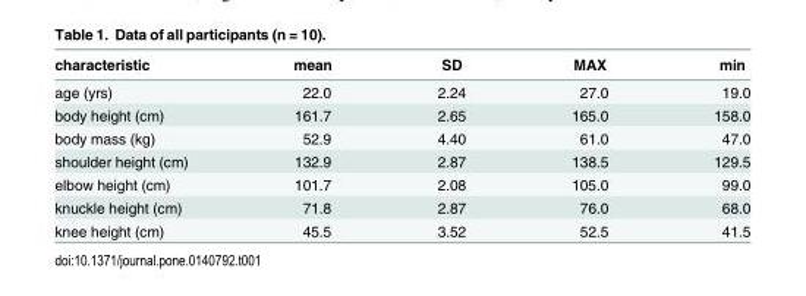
<table><thead><tr><td>characteristic</td><td>mean</td><td>SD</td><td>MAX</td><td>min</td></tr></thead><tbody><tr><td>age (yrs)</td><td>22.0</td><td>2.24</td><td>27.0</td><td>19.0</td></tr><tr><td>body height (cm)</td><td>161.7</td><td>2.65</td><td>165.0</td><td>158.0</td></tr><tr><td>body mass (kg)</td><td>52.9</td><td>4.40</td><td>61.0</td><td>47.0</td></tr><tr><td>shoulder height (cm)</td><td>132.9</td><td>2.87</td><td>138.5</td><td>129.5</td></tr><tr><td>elbow height (cm)</td><td>101.7</td><td>2.08</td><td>105.0</td><td>99.0</td></tr><tr><td>knuckle height (cm)</td><td>71.8</td><td>2.87</td><td>76.0</td><td>68.0</td></tr><tr><td>knee height (cm)</td><td>45.5</td><td>3.52</td><td>52.5</td><td>41.5</td></tr></tbody></table>